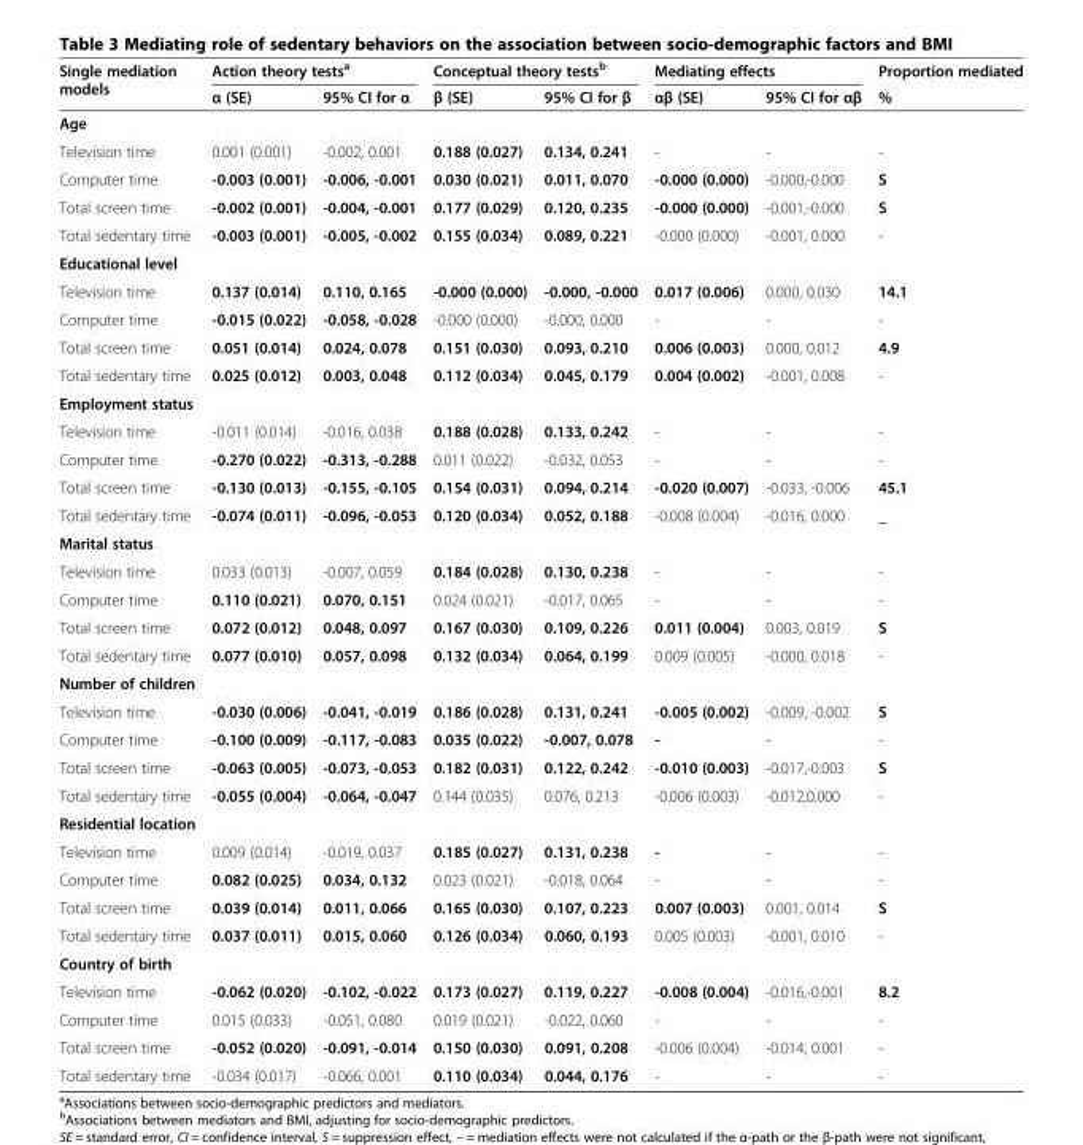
<table><thead><tr><td rowspan="2">Single mediation models</td><td colspan="2">Action theory tests<sup>a</sup></td><td colspan="2">Conceptual theory tests<sup>b</sup></td><td colspan="2">Mediating effects</td><td rowspan="2">Proportion mediated %</td></tr><tr><td>α (SE)</td><td>95% CI for α</td><td>β (SE)</td><td>95% CI for β</td><td>αβ (SE)</td><td>95% CI for αβ</td></tr></thead><tbody><tr><td colspan="8">Age</td></tr><tr><td>Television time</td><td>0.001 (0.001)</td><td>-0.002, 0.001</td><td>0.188 (0.027)</td><td>0.134, 0.241</td><td>-</td><td>-</td><td>-</td></tr><tr><td>Computer time</td><td>-0.003 (0.001)</td><td>-0.006, -0.001</td><td>0.030 (0.021)</td><td>0.011, 0.070</td><td>-0.000 (0.000)</td><td>-0.000,-0.000</td><td>S</td></tr><tr><td>Total screen time</td><td>-0.002 (0.001)</td><td>-0.004, -0.001</td><td>0.177 (0.029)</td><td>0.120, 0.235</td><td>-0.000 (0.000)</td><td>-0.001,-0.000</td><td>S</td></tr><tr><td>Total sedentary time</td><td>-0.003 (0.001)</td><td>-0.005, -0.002</td><td>0.155 (0.034)</td><td>0.089, 0.221</td><td>-0.000 (0.000)</td><td>-0.001, 0.000</td><td>-</td></tr><tr><td colspan="8">Educational level</td></tr><tr><td>Television time</td><td>0.137 (0.014)</td><td>0.110, 0.165</td><td>-0.000 (0.000)</td><td>-0.000, -0.000</td><td>0.017 (0.006)</td><td>0.000, 0.030</td><td>14.1</td></tr><tr><td>Computer time</td><td>-0.015 (0.022)</td><td>-0.058, -0.028</td><td>-0.000 (0.000)</td><td>-0.000, 0.000</td><td>-</td><td>-</td><td>-</td></tr><tr><td>Total screen time</td><td>0.051 (0.014)</td><td>0.024, 0.078</td><td>0.151 (0.030)</td><td>0.093, 0.210</td><td>0.006 (0.003)</td><td>0.000, 0.012</td><td>4.9</td></tr><tr><td>Total sedentary time</td><td>0.025 (0.012)</td><td>0.003, 0.048</td><td>0.112 (0.034)</td><td>0.045, 0.179</td><td>0.004 (0.002)</td><td>-0.001, 0.008</td><td>-</td></tr><tr><td colspan="8">Employment status</td></tr><tr><td>Television time</td><td>-0.011 (0.014)</td><td>-0.016, 0.038</td><td>0.188 (0.028)</td><td>0.133, 0.242</td><td>-</td><td>-</td><td>-</td></tr><tr><td>Computer time</td><td>-0.270 (0.022)</td><td>-0.313, -0.288</td><td>0.011 (0.022)</td><td>-0.032, 0.053</td><td>-</td><td>-</td><td>-</td></tr><tr><td>Total screen time</td><td>-0.130 (0.013)</td><td>-0.155, -0.105</td><td>0.154 (0.031)</td><td>0.094, 0.214</td><td>-0.020 (0.007)</td><td>-0.033, -0.006</td><td>45.1</td></tr><tr><td>Total sedentary time</td><td>-0.074 (0.011)</td><td>-0.096, -0.053</td><td>0.120 (0.034)</td><td>0.052, 0.188</td><td>-0.008 (0.004)</td><td>-0.016, 0.000</td><td>_</td></tr><tr><td colspan="8">Marital status</td></tr><tr><td>Television time</td><td>0.033 (0.013)</td><td>-0.007, 0.059</td><td>0.184 (0.028)</td><td>0.130, 0.238</td><td>-</td><td>-</td><td>-</td></tr><tr><td>Computer time</td><td>0.110 (0.021)</td><td>0.070, 0.151</td><td>0.024 (0.021)</td><td>-0.017, 0.065</td><td>-</td><td>-</td><td>-</td></tr><tr><td>Total screen time</td><td>0.072 (0.012)</td><td>0.048, 0.097</td><td>0.167 (0.030)</td><td>0.109, 0.226</td><td>0.011 (0.004)</td><td>0.003, 0.019</td><td>S</td></tr><tr><td>Total sedentary time</td><td>0.077 (0.010)</td><td>0.057, 0.098</td><td>0.132 (0.034)</td><td>0.064, 0.199</td><td>0.009 (0.005)</td><td>-0.000, 0.018</td><td>-</td></tr><tr><td colspan="8">Number of children</td></tr><tr><td>Television time</td><td>-0.030 (0.006)</td><td>-0.041, -0.019</td><td>0.186 (0.028)</td><td>0.131, 0.241</td><td>-0.005 (0.002)</td><td>-0.009, -0.002</td><td>S</td></tr><tr><td>Computer time</td><td>-0.100 (0.009)</td><td>-0.117, -0.083</td><td>0.035 (0.022)</td><td>-0.007, 0.078</td><td>-</td><td>-</td><td>-</td></tr><tr><td>Total screen time</td><td>-0.063 (0.005)</td><td>-0.073, -0.053</td><td>0.182 (0.031)</td><td>0.122, 0.242</td><td>-0.010 (0.003)</td><td>-0.017,-0.003</td><td>S</td></tr><tr><td>Total sedentary time</td><td>-0.055 (0.004)</td><td>-0.064, -0.047</td><td>0.144 (0.035)</td><td>0.076, 0.213</td><td>-0.006 (0.003)</td><td>-0.012,0.000</td><td>-</td></tr><tr><td colspan="8">Residential location</td></tr><tr><td>Television time</td><td>0.009 (0.014)</td><td>-0.019, 0.037</td><td>0.185 (0.027)</td><td>0.131, 0.238</td><td>-</td><td>-</td><td>-</td></tr><tr><td>Computer time</td><td>0.082 (0.025)</td><td>0.034, 0.132</td><td>0.023 (0.021)</td><td>-0.018, 0.064</td><td>-</td><td>-</td><td>-</td></tr><tr><td>Total screen time</td><td>0.039 (0.014)</td><td>0.011, 0.066</td><td>0.165 (0.030)</td><td>0.107, 0.223</td><td>0.007 (0.003)</td><td>0.001, 0.014</td><td>S</td></tr><tr><td>Total sedentary time</td><td>0.037 (0.011)</td><td>0.015, 0.060</td><td>0.126 (0.034)</td><td>0.060, 0.193</td><td>0.005 (0.003)</td><td>-0.001, 0.010</td><td>-</td></tr><tr><td colspan="8">Country of birth</td></tr><tr><td>Television time</td><td>-0.062 (0.020)</td><td>-0.102, -0.022</td><td>0.173 (0.027)</td><td>0.119, 0.227</td><td>-0.008 (0.004)</td><td>-0.016,-0.001</td><td>8.2</td></tr><tr><td>Computer time</td><td>0.015 (0.033)</td><td>-0.051, 0.080</td><td>0.019 (0.021)</td><td>-0.022, 0.060</td><td>-</td><td>-</td><td>-</td></tr><tr><td>Total screen time</td><td>-0.052 (0.020)</td><td>-0.091, -0.014</td><td>0.150 (0.030)</td><td>0.091, 0.208</td><td>-0.006 (0.004)</td><td>-0.014, 0.001</td><td>-</td></tr><tr><td>Total sedentary time</td><td>-0.034 (0.017)</td><td>-0.066, 0.001</td><td>0.110 (0.034)</td><td>0.044, 0.176</td><td>-</td><td>-</td><td>-</td></tr></tbody></table>